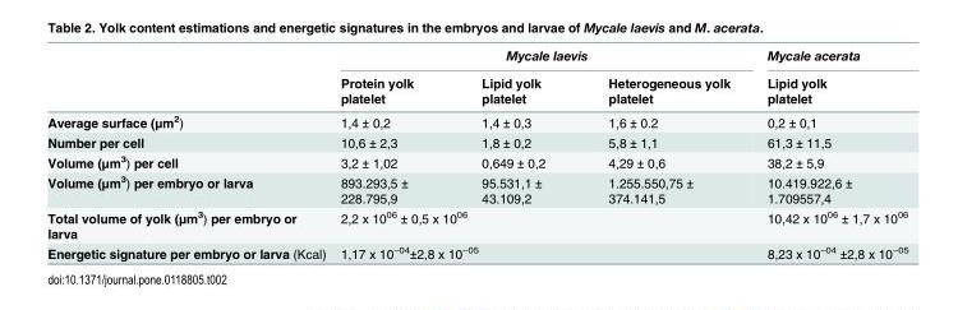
<table><thead><tr><td rowspan="3"></td><td colspan="3">Mycale laevis</td><td rowspan="3">Mycale acerata Lipid yolk platelet</td></tr><tr><td rowspan="2">Protein yolk platelet</td><td rowspan="2">Lipid yolk platelet</td><td rowspan="2">Heterogeneous yolk platelet</td></tr><tr></tr></thead><tbody><tr><td>Average surface (μm<sup>2</sup>)</td><td>1,4 ± 0,2</td><td>1,4 ± 0,3</td><td>1,6 ± 0.2</td><td>0,2 ± 0,1</td></tr><tr><td>Number per cell</td><td>10,6 ± 2,3</td><td>1,8 ± 0,2</td><td>5,8 ± 1,1</td><td>61,3 ± 11,5</td></tr><tr><td>Volume (μm<sup>3</sup>) per cell</td><td>3,2 ± 1,02</td><td>0,649 ± 0,2</td><td>4,29 ± 0,6</td><td>38,2 ± 5,9</td></tr><tr><td>Volume (μm<sup>3</sup>) per embryo or larva</td><td>893.293,5 ± 228.795,9</td><td>95.531,1 ± 43.109,2</td><td>1.255.550,75 ± 374.141,5</td><td>10.419.922,6 ± 1.709557,4</td></tr><tr><td>Total volume of yolk (μm<sup>3</sup>) per embryo or larva</td><td colspan="3">2,2 x 10<sup>06</sup> ± 0,5 x 10<sup>06</sup></td><td>10,42 x 10<sup>06</sup> ± 1,7 x 10<sup>06</sup></td></tr><tr><td>Energetic signature per embryo or larva (Kcal)</td><td colspan="3">1,17 x 10<sup>−04</sup>±2,8 x 10<sup>−05</sup></td><td>8,23 x 10<sup>−04</sup> ±2,8 x 10<sup>−05</sup></td></tr></tbody></table>